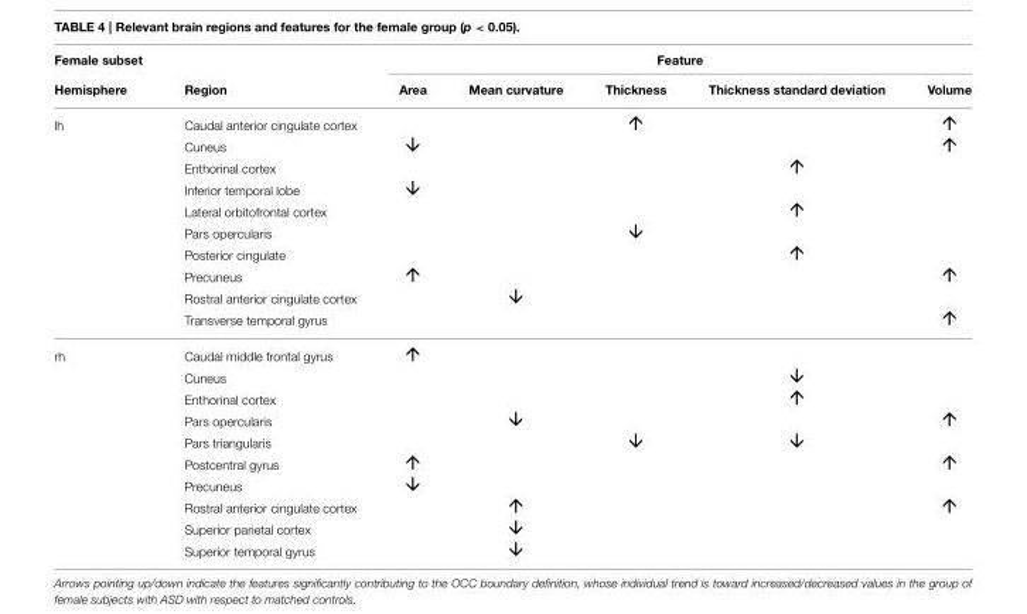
<table><thead><tr><td rowspan="2">Female subset Hemisphere</td><td rowspan="2">Region</td><td colspan="5">Feature</td></tr><tr><td>Area</td><td>Mean curvature</td><td>Thickness</td><td>Thickness standard deviation</td><td>Volume</td></tr></thead><tbody><tr><td rowspan="10">lh</td><td>Caudal anterior cingulate cortex</td><td></td><td></td><td></td><td></td><td></td></tr><tr><td>Cuneus</td><td></td><td></td><td></td><td></td><td></td></tr><tr><td>Enthorinal cortex</td><td></td><td></td><td></td><td></td><td></td></tr><tr><td>Inferior temporal lobe</td><td></td><td></td><td></td><td></td><td></td></tr><tr><td>Lateral orbitofrontal cortex</td><td></td><td></td><td></td><td></td><td></td></tr><tr><td>Pars opercularis</td><td></td><td></td><td></td><td></td><td></td></tr><tr><td>Posterior cingulate</td><td></td><td></td><td></td><td></td><td></td></tr><tr><td>Precuneus</td><td></td><td></td><td></td><td></td><td></td></tr><tr><td>Rostral anterior cingulate cortex</td><td></td><td></td><td></td><td></td><td></td></tr><tr><td>Transverse temporal gyrus</td><td></td><td></td><td></td><td></td><td></td></tr><tr><td rowspan="10">rh</td><td>Caudal middle frontal gyrus</td><td></td><td></td><td></td><td></td><td></td></tr><tr><td>Cuneus</td><td></td><td></td><td></td><td></td><td></td></tr><tr><td>Enthorinal cortex</td><td></td><td></td><td></td><td></td><td></td></tr><tr><td>Pars opercularis</td><td></td><td></td><td></td><td></td><td></td></tr><tr><td>Pars triangularis</td><td></td><td></td><td></td><td></td><td></td></tr><tr><td>Postcentral gyrus</td><td></td><td></td><td></td><td></td><td></td></tr><tr><td>Precuneus</td><td></td><td></td><td></td><td></td><td></td></tr><tr><td>Rostral anterior cingulate cortex</td><td></td><td></td><td></td><td></td><td></td></tr><tr><td>Superior parietal cortex</td><td></td><td></td><td></td><td></td><td></td></tr><tr><td>Superior temporal gyrus</td><td></td><td></td><td></td><td></td><td></td></tr></tbody></table>